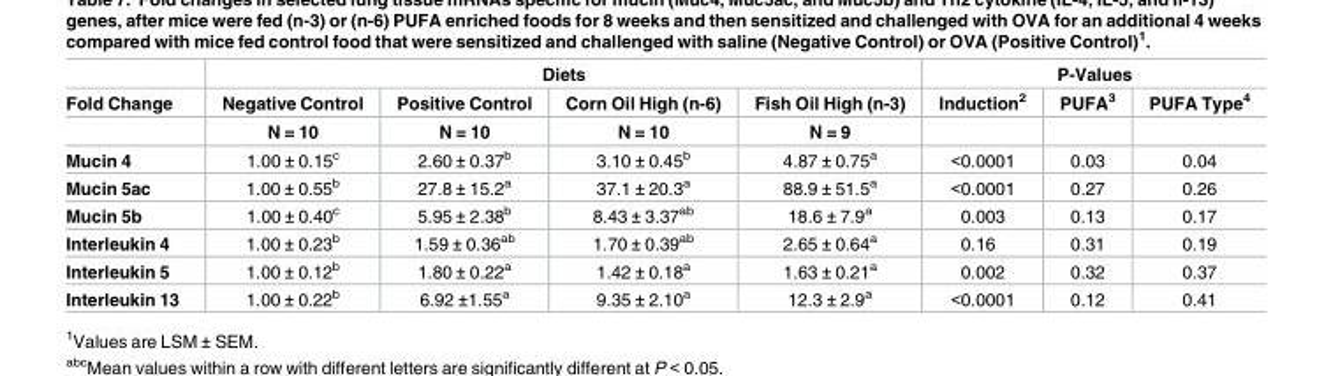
<table><thead><tr><td rowspan="3">Fold Change</td><td colspan="4">Diets</td><td colspan="3">P-Values</td></tr><tr><td rowspan="2">Negative Control N = 10</td><td rowspan="2">Positive Control N = 10</td><td rowspan="2">Corn Oil High (n-6) N = 10</td><td rowspan="2">Fish Oil High (n-3) N = 9</td><td rowspan="2">Induction<sup>2</sup></td><td rowspan="2">PUFA<sup>3</sup></td><td rowspan="2">PUFA Type<sup>4</sup></td></tr><tr></tr></thead><tbody><tr><td>Mucin 4</td><td>1.00 ± 0.15<sup>c</sup></td><td>2.60 ± 0.37<sup>b</sup></td><td>3.10 ± 0.45<sup>b</sup></td><td>4.87 ± 0.75<sup>a</sup></td><td>&lt;0.0001</td><td>0.03</td><td>0.04</td></tr><tr><td>Mucin 5ac</td><td>1.00 ± 0.55<sup>b</sup></td><td>27.8 ± 15.2<sup>a</sup></td><td>37.1 ± 20.3<sup>a</sup></td><td>88.9 ± 51.5<sup>a</sup></td><td>&lt;0.0001</td><td>0.27</td><td>0.26</td></tr><tr><td>Mucin 5b</td><td>1.00 ± 0.40<sup>c</sup></td><td>5.95 ± 2.38<sup>b</sup></td><td>8.43 ± 3.37<sup>ab</sup></td><td>18.6 ± 7.9<sup>a</sup></td><td>0.003</td><td>0.13</td><td>0.17</td></tr><tr><td>Interleukin 4</td><td>1.00 ± 0.23<sup>b</sup></td><td>1.59 ± 0.36<sup>ab</sup></td><td>1.70 ± 0.39<sup>ab</sup></td><td>2.65 ± 0.64<sup>a</sup></td><td>0.16</td><td>0.31</td><td>0.19</td></tr><tr><td>Interleukin 5</td><td>1.00 ± 0.12<sup>b</sup></td><td>1.80 ± 0.22<sup>a</sup></td><td>1.42 ± 0.18<sup>a</sup></td><td>1.63 ± 0.21<sup>a</sup></td><td>0.002</td><td>0.32</td><td>0.37</td></tr><tr><td>Interleukin 13</td><td>1.00 ± 0.22<sup>b</sup></td><td>6.92 ±1.55<sup>a</sup></td><td>9.35 ± 2.10<sup>a</sup></td><td>12.3 ± 2.9<sup>a</sup></td><td>&lt;0.0001</td><td>0.12</td><td>0.41</td></tr></tbody></table>